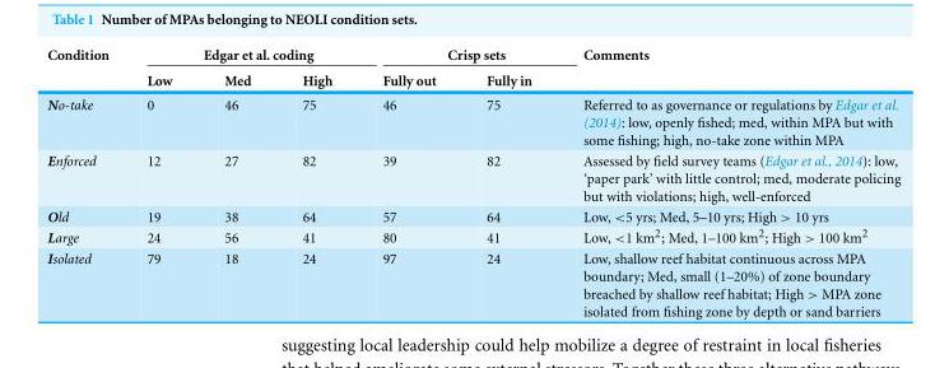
<table><thead><tr><td rowspan="2">Condition</td><td colspan="3">Edgar et al. coding</td><td colspan="2">Crisp sets</td><td rowspan="2">Comments</td></tr><tr><td>Low</td><td>Med</td><td>High</td><td>Fully out</td><td>Fully in</td></tr></thead><tbody><tr><td>No-take</td><td>0</td><td>46</td><td>75</td><td>46</td><td>75</td><td>Referred to as governance or regulations by Edgar et al. (2014): low, openly fished; med, within MPA but with some fishing; high, no-take zone within MPA</td></tr><tr><td>Enforced</td><td>12</td><td>27</td><td>82</td><td>39</td><td>82</td><td>Assessed by field survey teams (Edgar et al., 2014): low, ‘paper park’ with little control; med, moderate policing but with violations; high, well-enforced</td></tr><tr><td>Old</td><td>19</td><td>38</td><td>64</td><td>57</td><td>64</td><td>Low, &lt;5 yrs; Med, 5–10 yrs; High &gt; 10 yrs</td></tr><tr><td>Large</td><td>24</td><td>56</td><td>41</td><td>80</td><td>41</td><td>Low, &lt;1 km<sup>2</sup>; Med, 1–100 km<sup>2</sup>; High &gt; 100 km<sup>2</sup></td></tr><tr><td>Isolated</td><td>79</td><td>18</td><td>24</td><td>97</td><td>24</td><td>Low, shallow reef habitat continuous across MPA boundary; Med, small (1–20%) of zone boundary breached by shallow reef habitat; High &gt; MPA zone isolated from fishing zone by depth or sand barriers</td></tr></tbody></table>